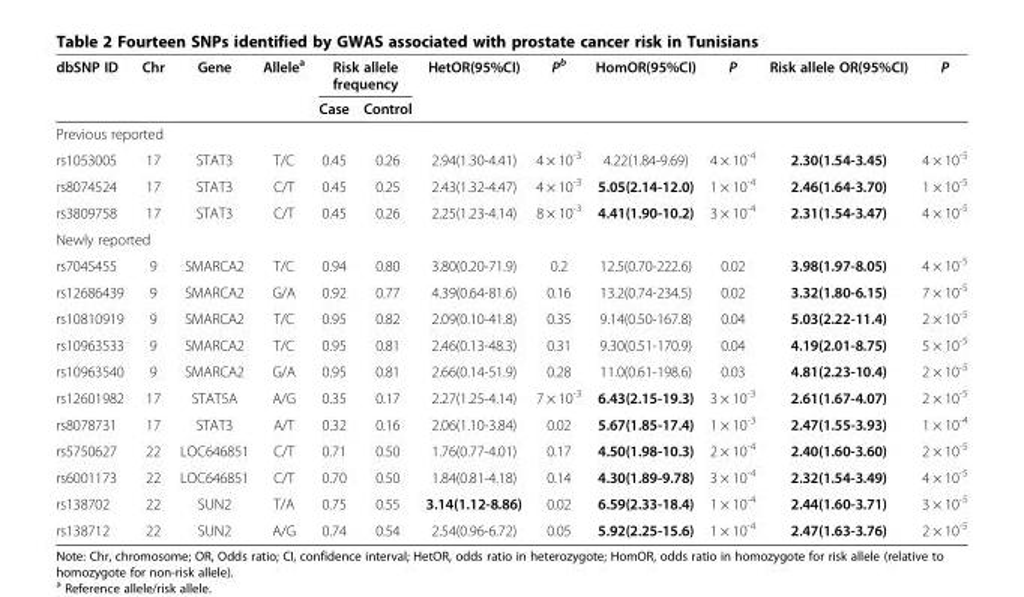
<table><thead><tr><td rowspan="2">dbSNP ID</td><td rowspan="2">Chr</td><td rowspan="2">Gene</td><td rowspan="2">Allele<sup>a</sup></td><td colspan="2">Risk allele frequency</td><td rowspan="2">HetOR(95%CI)</td><td rowspan="2">P<sup>b</sup></td><td rowspan="2">HomOR(95%CI)</td><td rowspan="2">P</td><td rowspan="2">Risk allele OR(95%CI)</td><td rowspan="2">P</td></tr><tr><td>Case</td><td>Control</td></tr></thead><tbody><tr><td colspan="12">Previous reported</td></tr><tr><td>rs1053005</td><td>17</td><td>STAT3</td><td>T/C</td><td>0.45</td><td>0.26</td><td>2.94(1.30-4.41)</td><td>4 × 10<sup>-3</sup></td><td>4.22(1.84-9.69)</td><td>4 × 10<sup>-4</sup></td><td>2.30(1.54-3.45)</td><td>4 × 10<sup>-5</sup></td></tr><tr><td>rs8074524</td><td>17</td><td>STAT3</td><td>C/T</td><td>0.45</td><td>0.25</td><td>2.43(1.32-4.47)</td><td>4 × 10<sup>-3</sup></td><td>5.05(2.14-12.0)</td><td>1 × 10<sup>-4</sup></td><td>2.46(1.64-3.70)</td><td>1 × 10<sup>-5</sup></td></tr><tr><td>rs3809758</td><td>17</td><td>STAT3</td><td>C/T</td><td>0.45</td><td>0.26</td><td>2.25(1.23-4.14)</td><td>8 × 10<sup>-3</sup></td><td>4.41(1.90-10.2)</td><td>3 × 10<sup>-4</sup></td><td>2.31(1.54-3.47)</td><td>4 × 10<sup>-5</sup></td></tr><tr><td colspan="12">Newly reported</td></tr><tr><td>rs7045455</td><td>9</td><td>SMARCA2</td><td>T/C</td><td>0.94</td><td>0.80</td><td>3.80(0.20-71.9)</td><td>0.2</td><td>12.5(0.70-222.6)</td><td>0.02</td><td>3.98(1.97-8.05)</td><td>4 × 10<sup>-5</sup></td></tr><tr><td>rs12686439</td><td>9</td><td>SMARCA2</td><td>G/A</td><td>0.92</td><td>0.77</td><td>4.39(0.64-81.6)</td><td>0.16</td><td>13.2(0.74-234.5)</td><td>0.02</td><td>3.32(1.80-6.15)</td><td>7 × 10<sup>-5</sup></td></tr><tr><td>rs10810919</td><td>9</td><td>SMARCA2</td><td>T/C</td><td>0.95</td><td>0.82</td><td>2.09(0.10-41.8)</td><td>0.35</td><td>9.14(0.50-167.8)</td><td>0.04</td><td>5.03(2.22-11.4)</td><td>2 × 10<sup>-5</sup></td></tr><tr><td>rs10963533</td><td>9</td><td>SMARCA2</td><td>T/C</td><td>0.95</td><td>0.81</td><td>2.46(0.13-48.3)</td><td>0.31</td><td>9.30(0.51-170.9)</td><td>0.04</td><td>4.19(2.01-8.75)</td><td>5 × 10<sup>-5</sup></td></tr><tr><td>rs10963540</td><td>9</td><td>SMARCA2</td><td>G/A</td><td>0.95</td><td>0.81</td><td>2.66(0.14-51.9)</td><td>0.28</td><td>11.0(0.61-198.6)</td><td>0.03</td><td>4.81(2.23-10.4)</td><td>2 × 10<sup>-5</sup></td></tr><tr><td>rs12601982</td><td>17</td><td>STAT5A</td><td>A/G</td><td>0.35</td><td>0.17</td><td>2.27(1.25-4.14)</td><td>7 × 10<sup>-3</sup></td><td>6.43(2.15-19.3)</td><td>3 × 10<sup>-3</sup></td><td>2.61(1.67-4.07)</td><td>2 × 10<sup>-5</sup></td></tr><tr><td>rs8078731</td><td>17</td><td>STAT3</td><td>A/T</td><td>0.32</td><td>0.16</td><td>2.06(1.10-3.84)</td><td>0.02</td><td>5.67(1.85-17.4)</td><td>1 × 10<sup>-3</sup></td><td>2.47(1.55-3.93)</td><td>1 × 10<sup>-4</sup></td></tr><tr><td>rs5750627</td><td>22</td><td>LOC646851</td><td>C/T</td><td>0.71</td><td>0.50</td><td>1.76(0.77-4.01)</td><td>0.17</td><td>4.50(1.98-10.3)</td><td>2 × 10<sup>-4</sup></td><td>2.40(1.60-3.60)</td><td>2 × 10<sup>-5</sup></td></tr><tr><td>rs6001173</td><td>22</td><td>LOC646851</td><td>C/T</td><td>0.70</td><td>0.50</td><td>1.84(0.81-4.18)</td><td>0.14</td><td>4.30(1.89-9.78)</td><td>3 × 10<sup>-4</sup></td><td>2.32(1.54-3.49)</td><td>4 × 10<sup>-5</sup></td></tr><tr><td>rs138702</td><td>22</td><td>SUN2</td><td>T/A</td><td>0.75</td><td>0.55</td><td>3.14(1.12-8.86)</td><td>0.02</td><td>6.59(2.33-18.4)</td><td>1 × 10<sup>-4</sup></td><td>2.44(1.60-3.71)</td><td>3 × 10<sup>-5</sup></td></tr><tr><td>rs138712</td><td>22</td><td>SUN2</td><td>A/G</td><td>0.74</td><td>0.54</td><td>2.54(0.96-6.72)</td><td>0.05</td><td>5.92(2.25-15.6)</td><td>1 × 10<sup>-4</sup></td><td>2.47(1.63-3.76)</td><td>2 × 10<sup>-5</sup></td></tr></tbody></table>